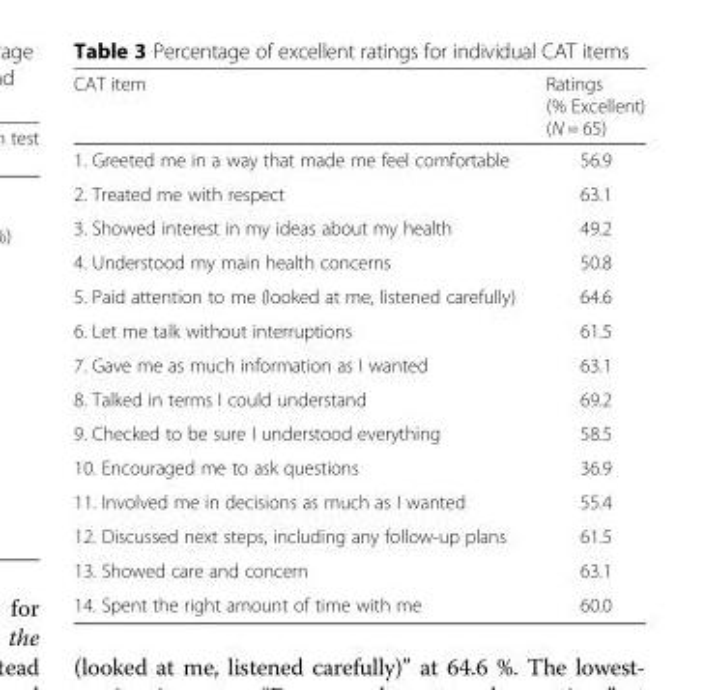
<table><thead><tr><td>CAT item</td><td>Ratings (% Excellent) (N = 65)</td></tr></thead><tbody><tr><td>1. Greeted me in a way that made me feel comfortable</td><td>56.9</td></tr><tr><td>2. Treated me with respect</td><td>63.1</td></tr><tr><td>3. Showed interest in my ideas about my health</td><td>49.2</td></tr><tr><td>4. Understood my main health concerns</td><td>50.8</td></tr><tr><td>5. Paid attention to me (looked at me, listened carefully)</td><td>64.6</td></tr><tr><td>6. Let me talk without interruptions</td><td>61.5</td></tr><tr><td>7. Gave me as much information as I wanted</td><td>63.1</td></tr><tr><td>8. Talked in terms I could understand</td><td>69.2</td></tr><tr><td>9. Checked to be sure I understood everything</td><td>58.5</td></tr><tr><td>10. Encouraged me to ask questions</td><td>36.9</td></tr><tr><td>11. Involved me in decisions as much as I wanted</td><td>55.4</td></tr><tr><td>12. Discussed next steps, including any follow-up plans</td><td>61.5</td></tr><tr><td>13. Showed care and concern</td><td>63.1</td></tr><tr><td>14. Spent the right amount of time with me</td><td>60.0</td></tr></tbody></table>